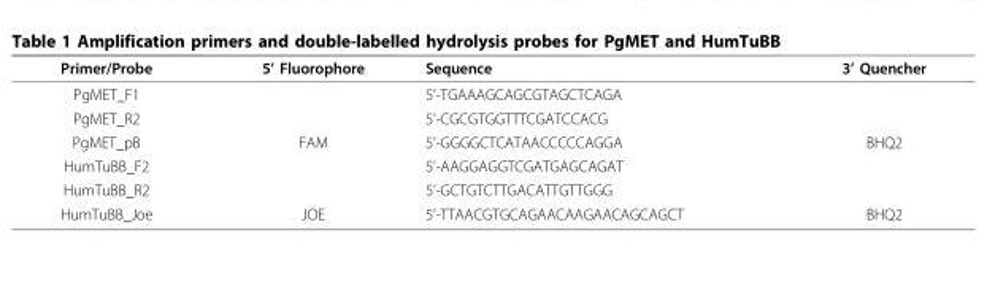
<table><thead><tr><td>Primer/Probe</td><td>5’ Fluorophore</td><td>Sequence</td><td>3’ Quencher</td></tr></thead><tbody><tr><td>PgMET_F1</td><td></td><td>5’-TGAAAGCAGCGTAGCTCAGA</td><td></td></tr><tr><td>PgMET_R2</td><td></td><td>5’-CGCGTGGTTTCGATCCACG</td><td></td></tr><tr><td>PgMET_pB</td><td>FAM</td><td>5’-GGGGCTCATAACCCCCAGGA</td><td>BHQ2</td></tr><tr><td>HumTuBB_F2</td><td></td><td>5’-AAGGAGGTCGATGAGCAGAT</td><td></td></tr><tr><td>HumTuBB_R2</td><td></td><td>5’-GCTGTCTTGACATTGTTGGG</td><td></td></tr><tr><td>HumTuBB_Joe</td><td>JOE</td><td>5’-TTAACGTGCAGAACAAGAACAGCAGCT</td><td>BHQ2</td></tr></tbody></table>